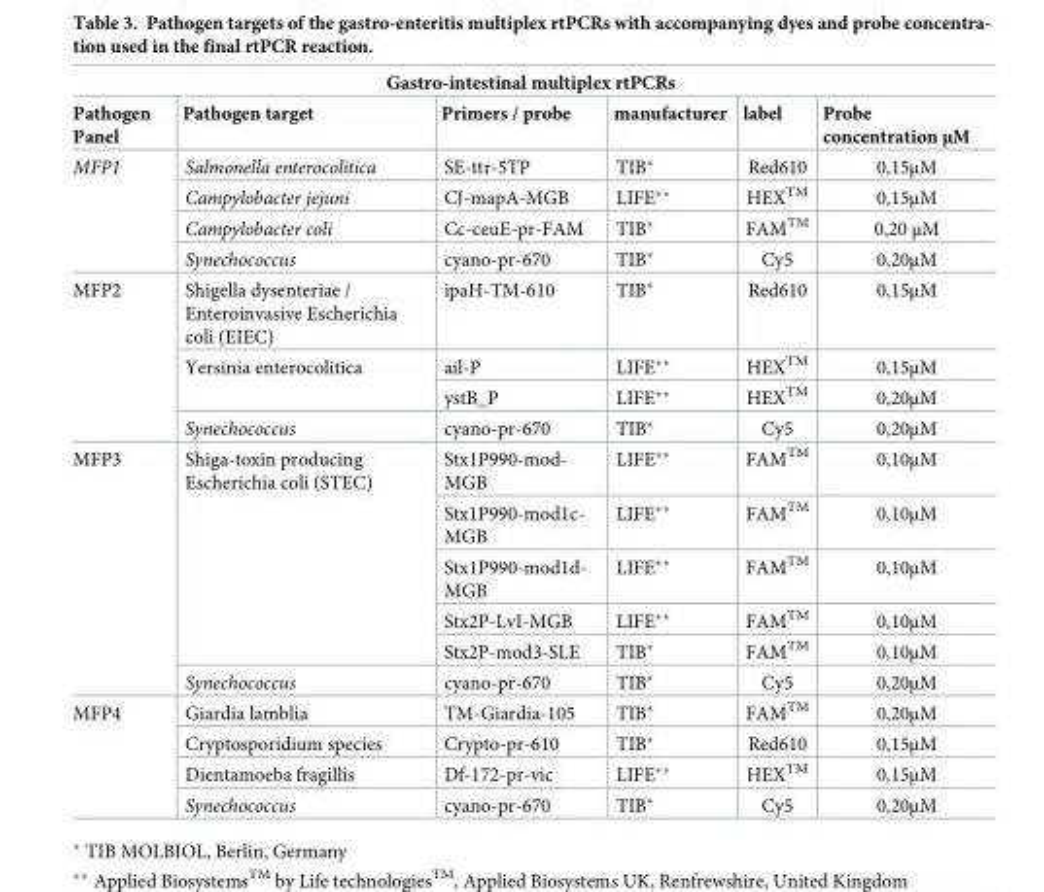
<table><thead><tr><td colspan="6">Gastro-intestinal multiplex rtPCRs</td></tr><tr><td>Pathogen Panel</td><td>Pathogen target</td><td>Primers / probe</td><td>manufacturer</td><td>label</td><td>Probe concentration μM</td></tr></thead><tbody><tr><td rowspan="4">MFP1</td><td>Salmonella enterocolitica</td><td>SE-ttr-5TP</td><td>TIB*</td><td>Red610</td><td>0,15μM</td></tr><tr><td>Campylobacter jejuni</td><td>CJ-mapA-MGB</td><td>LIFE**</td><td>HEX<sup>TM</sup></td><td>0,15μM</td></tr><tr><td>Campylobacter coli</td><td>Cc-ceuE-pr-FAM</td><td>TIB*</td><td>FAM<sup>TM</sup></td><td>0,20 μM</td></tr><tr><td>Synechococcus</td><td>cyano-pr-670</td><td>TIB*</td><td>Cy5</td><td>0,20μM</td></tr><tr><td rowspan="4">MFP2</td><td>Shigella dysenteriae / Enteroinvasive Escherichia coli (EIEC)</td><td>ipaH-TM-610</td><td>TIB*</td><td>Red610</td><td>0,15μM</td></tr><tr><td rowspan="2">Yersinia enterocolitica</td><td>ail-P</td><td>LIFE**</td><td>HEX<sup>TM</sup></td><td>0,15μM</td></tr><tr><td>ystB_P</td><td>LIFE**</td><td>HEX<sup>TM</sup></td><td>0,20μM</td></tr><tr><td>Synechococcus</td><td>cyano-pr-670</td><td>TIB*</td><td>Cy5</td><td>0,20μM</td></tr><tr><td rowspan="6">MFP3</td><td rowspan="5">Shiga-toxin producing Escherichia coli (STEC)</td><td>Stx1P990-mod- MGB</td><td>LIFE**</td><td>FAM<sup>TM</sup></td><td>0,10μM</td></tr><tr><td>Stx1P990-mod1c- MGB</td><td>LIFE**</td><td>FAM<sup>TM</sup></td><td>0,10μM</td></tr><tr><td>Stx1P990-mod1d- MGB</td><td>LIFE**</td><td>FAM<sup>TM</sup></td><td>0,10μM</td></tr><tr><td>Stx2P-LvI-MGB</td><td>LIFE**</td><td>FAM<sup>TM</sup></td><td>0,10μM</td></tr><tr><td>Stx2P-mod3-SLE</td><td>TIB*</td><td>FAM<sup>TM</sup></td><td>0,10μM</td></tr><tr><td>Synechococcus</td><td>cyano-pr-670</td><td>TIB*</td><td>Cy5</td><td>0,20μM</td></tr><tr><td rowspan="4">MFP4</td><td>Giardia lamblia</td><td>TM-Giardia-105</td><td>TIB*</td><td>FAM<sup>TM</sup></td><td>0,20μM</td></tr><tr><td>Cryptosporidium species</td><td>Crypto-pr-610</td><td>TIB*</td><td>Red610</td><td>0,15μM</td></tr><tr><td>Dientamoeba fragillis</td><td>Df-172-pr-vic</td><td>LIFE**</td><td>HEX<sup>TM</sup></td><td>0,15μM</td></tr><tr><td>Synechococcus</td><td>cyano-pr-670</td><td>TIB*</td><td>Cy5</td><td>0,20μM</td></tr></tbody></table>